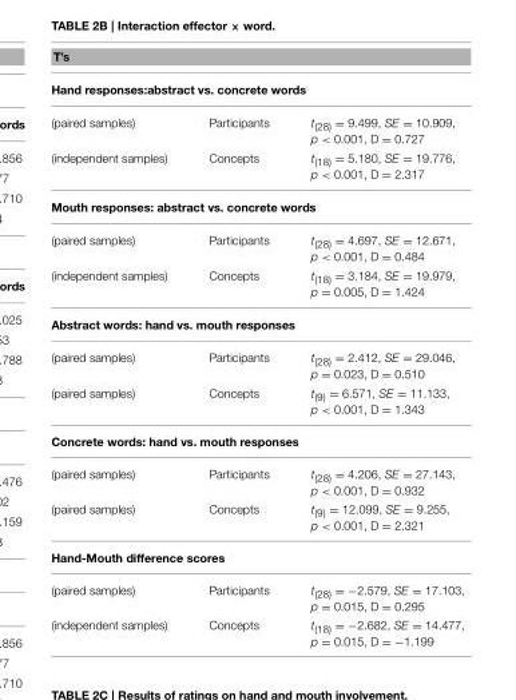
<table><thead><tr><td rowspan="2" colspan="3">T’s Hand responses:abstract vs. concrete words</td></tr><tr></tr><tr><td>(paired samples)</td><td>Participants</td><td>t<sub>(28)</sub> = 9.499, SE = 10.909, p &lt; 0.001, D = 0.727</td></tr></thead><tbody><tr><td>(independent samples)</td><td>Concepts</td><td>t<sub>(18)</sub> = 5.180, SE = 19.776, p &lt; 0.001, D = 2.317</td></tr><tr><td colspan="3">Mouth responses: abstract vs. concrete words</td></tr><tr><td>(paired samples)</td><td>Participants</td><td>t<sub>(28)</sub> = 4.697, SE = 12.671, p &lt; 0.001, D = 0.484</td></tr><tr><td>(independent samples)</td><td>Concepts</td><td>t<sub>(18)</sub> = 3.184, SE = 19.979, p = 0.005, D = 1.424</td></tr><tr><td colspan="3">Abstract words: hand vs. mouth responses</td></tr><tr><td>(paired samples)</td><td>Participants</td><td>t<sub>(28)</sub> = 2.412, SE = 29.046, p = 0.023, D = 0.510</td></tr><tr><td>(paired samples)</td><td>Concepts</td><td>t<sub>(9)</sub> = 6.571, SE = 11.133, p &lt; 0.001, D = 1.343</td></tr><tr><td colspan="3">Concrete words: hand vs. mouth responses</td></tr><tr><td>(paired samples)</td><td>Participants</td><td>t<sub>(28)</sub> = 4.206, SE = 27.143, p &lt; 0.001, D = 0.932</td></tr><tr><td>(paired samples)</td><td>Concepts</td><td>t<sub>(9)</sub> = 12.099, SE = 9.255, p &lt; 0.001, D = 2.321</td></tr><tr><td colspan="3">Hand-Mouth difference scores</td></tr><tr><td>(paired samples)</td><td>Participants</td><td>t<sub>(28)</sub> = −2.579, SE = 17.103, p = 0.015, D = 0.295</td></tr><tr><td>(independent samples)</td><td>Concepts</td><td>t<sub>(18)</sub> = −2.682, SE = 14.477, p = 0.015, D = −1.199</td></tr></tbody></table>